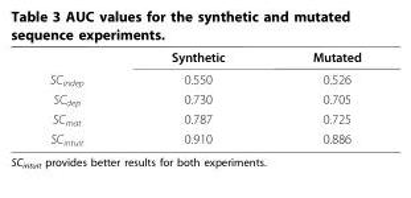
<table><thead><tr><td></td><td>Synthetic</td><td>Mutated</td></tr></thead><tbody><tr><td>SC<sub>indep</sub></td><td>0.550</td><td>0.526</td></tr><tr><td>SC<sub>dep</sub></td><td>0.730</td><td>0.705</td></tr><tr><td>SC<sub>mat</sub></td><td>0.787</td><td>0.725</td></tr><tr><td>SC<sub>intuit</sub></td><td>0.910</td><td>0.886</td></tr></tbody></table>